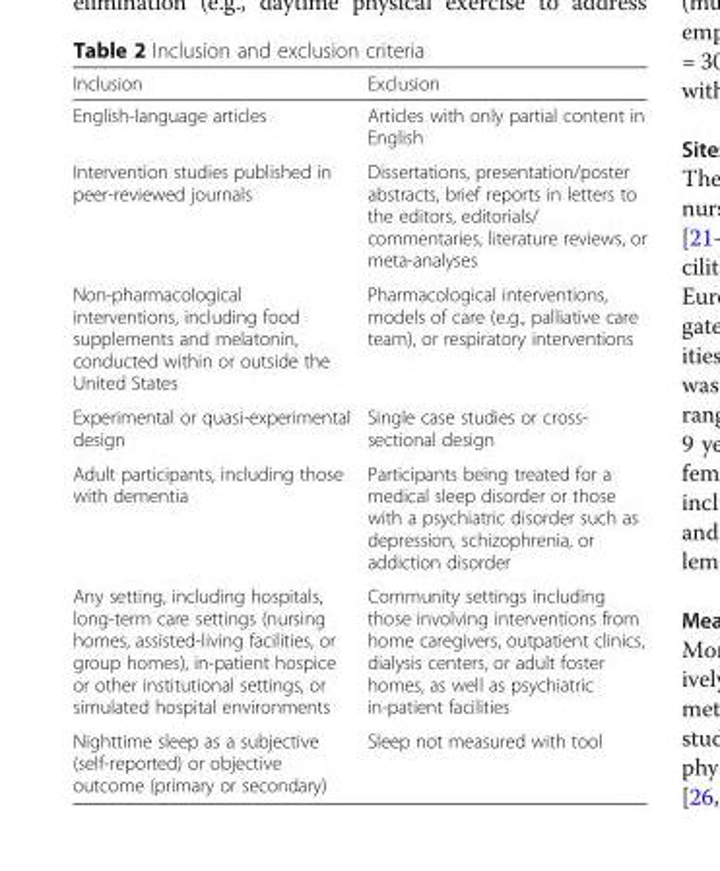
<table><thead><tr><td>Inclusion</td><td>Exclusion</td></tr></thead><tbody><tr><td>English-language articles</td><td>Articles with only partial content in English</td></tr><tr><td>Intervention studies published in peer-reviewed journals</td><td>Dissertations, presentation/poster abstracts, brief reports in letters to the editors, editorials/ commentaries, literature reviews, or meta-analyses</td></tr><tr><td>Non-pharmacological interventions, including food supplements and melatonin, conducted within or outside the United States</td><td>Pharmacological interventions, models of care (e.g., palliative care team), or respiratory interventions</td></tr><tr><td>Experimental or quasi-experimental design</td><td>Single case studies or cross- sectional design</td></tr><tr><td>Adult participants, including those with dementia</td><td>Participants being treated for a medical sleep disorder or those with a psychiatric disorder such as depression, schizophrenia, or addiction disorder</td></tr><tr><td>Any setting, including hospitals, long-term care settings (nursing homes, assisted-living facilities, or group homes), in-patient hospice or other institutional settings, or simulated hospital environments</td><td>Community settings including those involving interventions from home caregivers, outpatient clinics, dialysis centers, or adult foster homes, as well as psychiatric in-patient facilities</td></tr><tr><td>Nighttime sleep as a subjective (self-reported) or objective outcome (primary or secondary)</td><td>Sleep not measured with tool</td></tr></tbody></table>